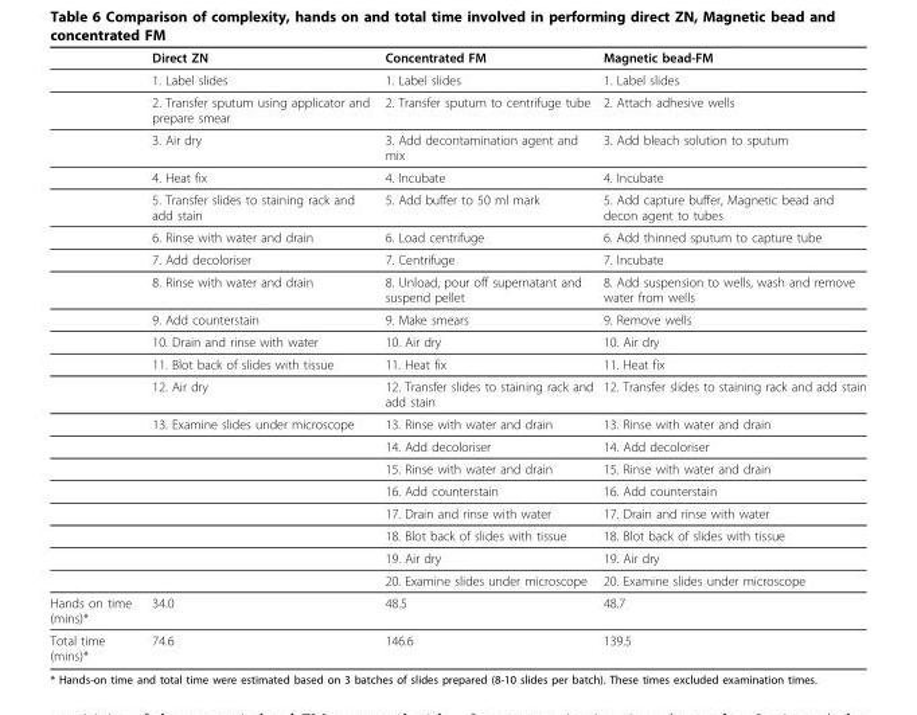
<table><thead><tr><td></td><td>Direct ZN</td><td>Concentrated FM</td><td>Magnetic bead-FM</td></tr></thead><tbody><tr><td></td><td>1. Label slides</td><td>1. Label slides</td><td>1. Label slides</td></tr><tr><td></td><td>2. Transfer sputum using applicator and prepare smear</td><td>2. Transfer sputum to centrifuge tube</td><td>2. Attach adhesive wells</td></tr><tr><td></td><td>3. Air dry</td><td>3. Add decontamination agent and mix</td><td>3. Add bleach solution to sputum</td></tr><tr><td></td><td>4. Heat fix</td><td>4. Incubate</td><td>4. Incubate</td></tr><tr><td></td><td>5. Transfer slides to staining rack and add stain</td><td>5. Add buffer to 50 ml mark</td><td>5. Add capture buffer, Magnetic bead and decon agent to tubes</td></tr><tr><td></td><td>6. Rinse with water and drain</td><td>6. Load centrifuge</td><td>6. Add thinned sputum to capture tube</td></tr><tr><td></td><td>7. Add decoloriser</td><td>7. Centrifuge</td><td>7. Incubate</td></tr><tr><td></td><td>8. Rinse with water and drain</td><td>8. Unload, pour off supernatant and suspend pellet</td><td>8. Add suspension to wells, wash and remove water from wells</td></tr><tr><td></td><td>9. Add counterstain</td><td>9. Make smears</td><td>9. Remove wells</td></tr><tr><td></td><td>10. Drain and rinse with water</td><td>10. Air dry</td><td>10. Air dry</td></tr><tr><td></td><td>11. Blot back of slides with tissue</td><td>11. Heat fix</td><td>11. Heat fix</td></tr><tr><td></td><td>12. Air dry</td><td>12. Transfer slides to staining rack and add stain</td><td>12. Transfer slides to staining rack and add stain</td></tr><tr><td></td><td>13. Examine slides under microscope</td><td>13. Rinse with water and drain</td><td>13. Rinse with water and drain</td></tr><tr><td></td><td></td><td>14. Add decoloriser</td><td>14. Add decoloriser</td></tr><tr><td></td><td></td><td>15. Rinse with water and drain</td><td>15. Rinse with water and drain</td></tr><tr><td></td><td></td><td>16. Add counterstain</td><td>16. Add counterstain</td></tr><tr><td></td><td></td><td>17. Drain and rinse with water</td><td>17. Drain and rinse with water</td></tr><tr><td></td><td></td><td>18. Blot back of slides with tissue</td><td>18. Blot back of slides with tissue</td></tr><tr><td></td><td></td><td>19. Air dry</td><td>19. Air dry</td></tr><tr><td></td><td></td><td>20. Examine slides under microscope</td><td>20. Examine slides under microscope</td></tr><tr><td>Hands on time (mins)*</td><td>34.0</td><td>48.5</td><td>48.7</td></tr><tr><td>Total time (mins)*</td><td>74.6</td><td>146.6</td><td>139.5</td></tr></tbody></table>